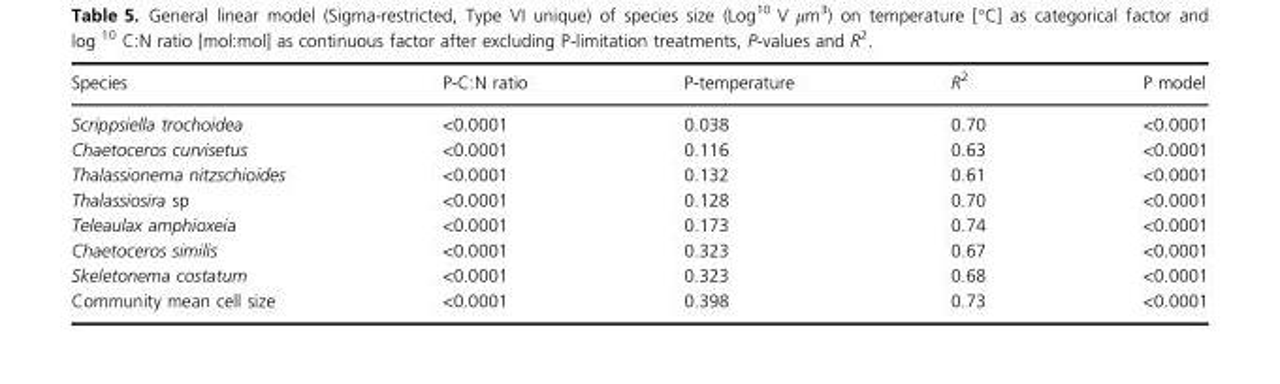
<table><thead><tr><td>Species</td><td>P-C:N ratio</td><td>P-temperature</td><td>R<sup>2</sup></td><td>P model</td></tr></thead><tbody><tr><td>Scrippsiella trochoidea</td><td>&lt;0.0001</td><td>0.038</td><td>0.70</td><td>&lt;0.0001</td></tr><tr><td>Chaetoceros curvisetus</td><td>&lt;0.0001</td><td>0.116</td><td>0.63</td><td>&lt;0.0001</td></tr><tr><td>Thalassionema nitzschioides</td><td>&lt;0.0001</td><td>0.132</td><td>0.61</td><td>&lt;0.0001</td></tr><tr><td>Thalassiosira sp</td><td>&lt;0.0001</td><td>0.128</td><td>0.70</td><td>&lt;0.0001</td></tr><tr><td>Teleaulax amphioxeia</td><td>&lt;0.0001</td><td>0.173</td><td>0.74</td><td>&lt;0.0001</td></tr><tr><td>Chaetoceros similis</td><td>&lt;0.0001</td><td>0.323</td><td>0.67</td><td>&lt;0.0001</td></tr><tr><td>Skeletonema costatum</td><td>&lt;0.0001</td><td>0.323</td><td>0.68</td><td>&lt;0.0001</td></tr><tr><td>Community mean cell size</td><td>&lt;0.0001</td><td>0.398</td><td>0.73</td><td>&lt;0.0001</td></tr></tbody></table>